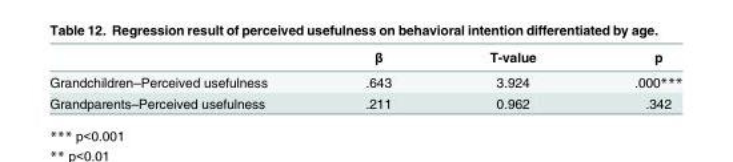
<table><thead><tr><td></td><td>β</td><td>T-value</td><td>p</td></tr></thead><tbody><tr><td>Grandchildren–Perceived usefulness</td><td>.643</td><td>3.924</td><td>.000***</td></tr><tr><td>Grandparents–Perceived usefulness</td><td>.211</td><td>0.962</td><td>.342</td></tr></tbody></table>